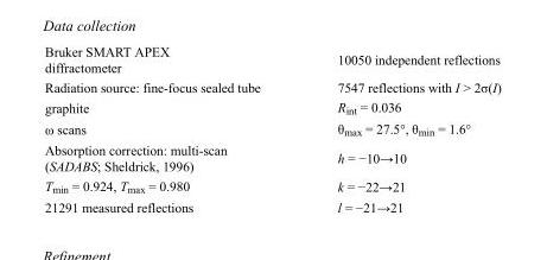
<table><tbody><tr><td>Bruker SMART APEX diffractometer</td><td>10050 independent reflections</td></tr><tr><td>Radiation source: fine-focus sealed tube</td><td>7547 reflections with I &gt; 2σ(I)</td></tr><tr><td>graphite</td><td>R<sub>int</sub> = 0.036</td></tr><tr><td>ω scans</td><td>θ<sub>max</sub> = 27.5°, θ<sub>min</sub> = 1.6°</td></tr><tr><td>Absorption correction: multi-scan (SADABS; Sheldrick, 1996)</td><td>h = −10→10</td></tr><tr><td>T<sub>min</sub> = 0.924, T<sub>max</sub> = 0.980</td><td>k = −22→21</td></tr><tr><td>21291 measured reflections</td><td>l = −21→21</td></tr></tbody></table>